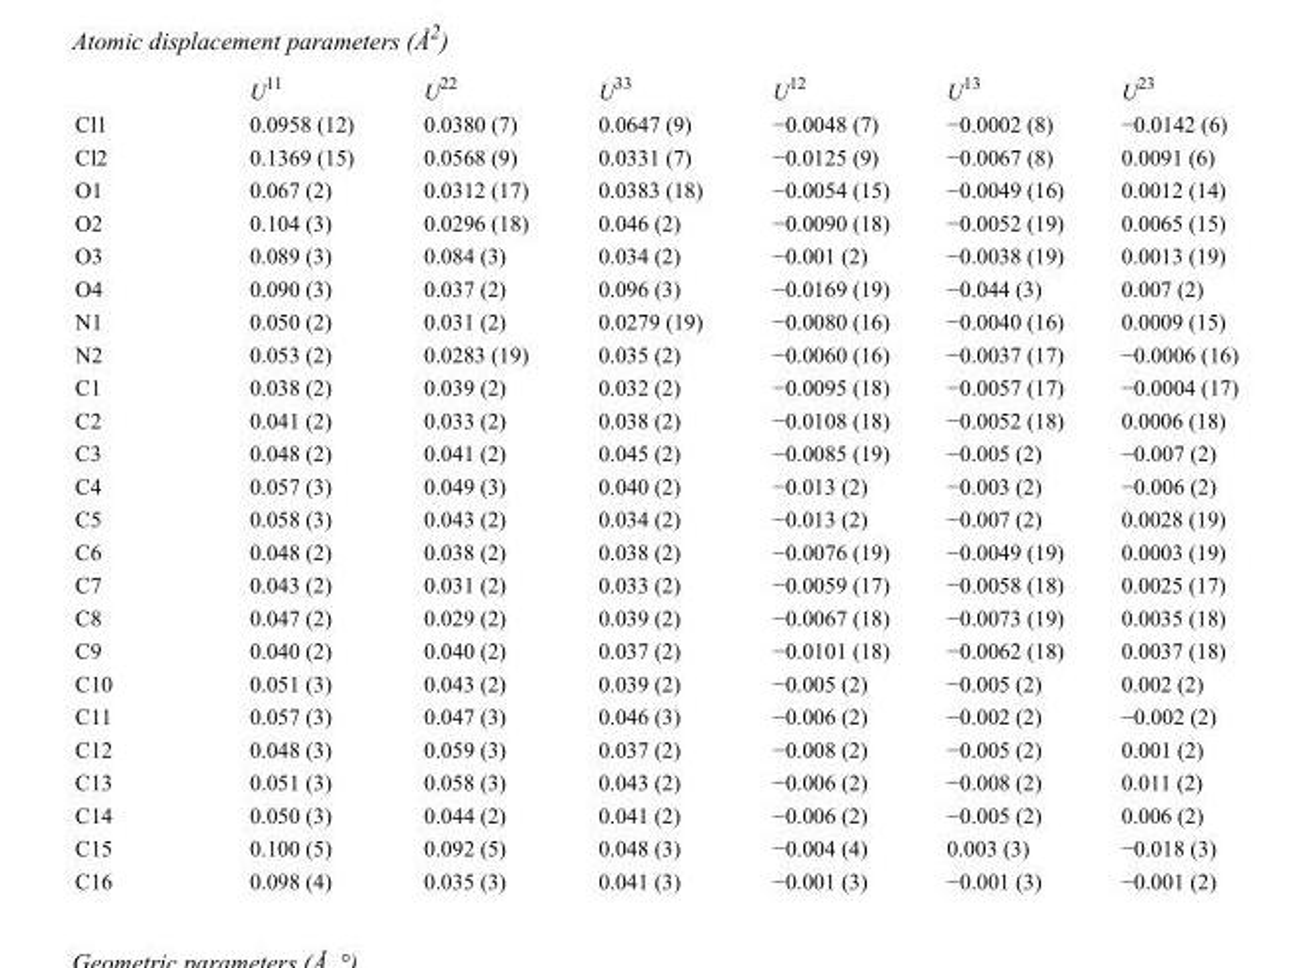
<table><thead><tr><td></td><td>U<sup>11</sup></td><td>U<sup>22</sup></td><td>U<sup>33</sup></td><td>U<sup>12</sup></td><td>U<sup>13</sup></td><td>U<sup>23</sup></td></tr></thead><tbody><tr><td>Cl1</td><td>0.0958 (12)</td><td>0.0380 (7)</td><td>0.0647 (9)</td><td>−0.0048 (7)</td><td>−0.0002 (8)</td><td>−0.0142 (6)</td></tr><tr><td>Cl2</td><td>0.1369 (15)</td><td>0.0568 (9)</td><td>0.0331 (7)</td><td>−0.0125 (9)</td><td>−0.0067 (8)</td><td>0.0091 (6)</td></tr><tr><td>O1</td><td>0.067 (2)</td><td>0.0312 (17)</td><td>0.0383 (18)</td><td>−0.0054 (15)</td><td>−0.0049 (16)</td><td>0.0012 (14)</td></tr><tr><td>O2</td><td>0.104 (3)</td><td>0.0296 (18)</td><td>0.046 (2)</td><td>−0.0090 (18)</td><td>−0.0052 (19)</td><td>0.0065 (15)</td></tr><tr><td>O3</td><td>0.089 (3)</td><td>0.084 (3)</td><td>0.034 (2)</td><td>−0.001 (2)</td><td>−0.0038 (19)</td><td>0.0013 (19)</td></tr><tr><td>O4</td><td>0.090 (3)</td><td>0.037 (2)</td><td>0.096 (3)</td><td>−0.0169 (19)</td><td>−0.044 (3)</td><td>0.007 (2)</td></tr><tr><td>N1</td><td>0.050 (2)</td><td>0.031 (2)</td><td>0.0279 (19)</td><td>−0.0080 (16)</td><td>−0.0040 (16)</td><td>0.0009 (15)</td></tr><tr><td>N2</td><td>0.053 (2)</td><td>0.0283 (19)</td><td>0.035 (2)</td><td>−0.0060 (16)</td><td>−0.0037 (17)</td><td>−0.0006 (16)</td></tr><tr><td>C1</td><td>0.038 (2)</td><td>0.039 (2)</td><td>0.032 (2)</td><td>−0.0095 (18)</td><td>−0.0057 (17)</td><td>−0.0004 (17)</td></tr><tr><td>C2</td><td>0.041 (2)</td><td>0.033 (2)</td><td>0.038 (2)</td><td>−0.0108 (18)</td><td>−0.0052 (18)</td><td>0.0006 (18)</td></tr><tr><td>C3</td><td>0.048 (2)</td><td>0.041 (2)</td><td>0.045 (2)</td><td>−0.0085 (19)</td><td>−0.005 (2)</td><td>−0.007 (2)</td></tr><tr><td>C4</td><td>0.057 (3)</td><td>0.049 (3)</td><td>0.040 (2)</td><td>−0.013 (2)</td><td>−0.003 (2)</td><td>−0.006 (2)</td></tr><tr><td>C5</td><td>0.058 (3)</td><td>0.043 (2)</td><td>0.034 (2)</td><td>−0.013 (2)</td><td>−0.007 (2)</td><td>0.0028 (19)</td></tr><tr><td>C6</td><td>0.048 (2)</td><td>0.038 (2)</td><td>0.038 (2)</td><td>−0.0076 (19)</td><td>−0.0049 (19)</td><td>0.0003 (19)</td></tr><tr><td>C7</td><td>0.043 (2)</td><td>0.031 (2)</td><td>0.033 (2)</td><td>−0.0059 (17)</td><td>−0.0058 (18)</td><td>0.0025 (17)</td></tr><tr><td>C8</td><td>0.047 (2)</td><td>0.029 (2)</td><td>0.039 (2)</td><td>−0.0067 (18)</td><td>−0.0073 (19)</td><td>0.0035 (18)</td></tr><tr><td>C9</td><td>0.040 (2)</td><td>0.040 (2)</td><td>0.037 (2)</td><td>−0.0101 (18)</td><td>−0.0062 (18)</td><td>0.0037 (18)</td></tr><tr><td>C10</td><td>0.051 (3)</td><td>0.043 (2)</td><td>0.039 (2)</td><td>−0.005 (2)</td><td>−0.005 (2)</td><td>0.002 (2)</td></tr><tr><td>C11</td><td>0.057 (3)</td><td>0.047 (3)</td><td>0.046 (3)</td><td>−0.006 (2)</td><td>−0.002 (2)</td><td>−0.002 (2)</td></tr><tr><td>C12</td><td>0.048 (3)</td><td>0.059 (3)</td><td>0.037 (2)</td><td>−0.008 (2)</td><td>−0.005 (2)</td><td>0.001 (2)</td></tr><tr><td>C13</td><td>0.051 (3)</td><td>0.058 (3)</td><td>0.043 (2)</td><td>−0.006 (2)</td><td>−0.008 (2)</td><td>0.011 (2)</td></tr><tr><td>C14</td><td>0.050 (3)</td><td>0.044 (2)</td><td>0.041 (2)</td><td>−0.006 (2)</td><td>−0.005 (2)</td><td>0.006 (2)</td></tr><tr><td>C15</td><td>0.100 (5)</td><td>0.092 (5)</td><td>0.048 (3)</td><td>−0.004 (4)</td><td>0.003 (3)</td><td>−0.018 (3)</td></tr><tr><td>C16</td><td>0.098 (4)</td><td>0.035 (3)</td><td>0.041 (3)</td><td>−0.001 (3)</td><td>−0.001 (3)</td><td>−0.001 (2)</td></tr></tbody></table>